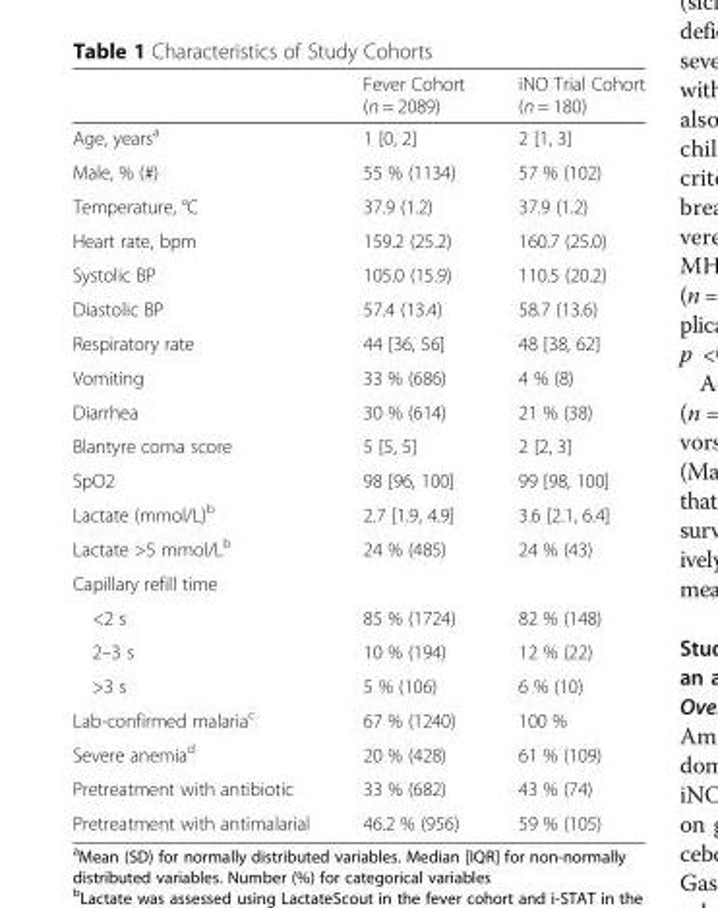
<table><thead><tr><td></td><td>Fever Cohort (n = 2089)</td><td>iNO Trial Cohort (n = 180)</td></tr></thead><tbody><tr><td>Age, years<sup>a</sup></td><td>1 [0, 2]</td><td>2 [1, 3]</td></tr><tr><td>Male, % (#)</td><td>55 % (1134)</td><td>57 % (102)</td></tr><tr><td>Temperature, °C</td><td>37.9 (1.2)</td><td>37.9 (1.2)</td></tr><tr><td>Heart rate, bpm</td><td>159.2 (25.2)</td><td>160.7 (25.0)</td></tr><tr><td>Systolic BP</td><td>105.0 (15.9)</td><td>110.5 (20.2)</td></tr><tr><td>Diastolic BP</td><td>57.4 (13.4)</td><td>58.7 (13.6)</td></tr><tr><td>Respiratory rate</td><td>44 [36, 56]</td><td>48 [38, 62]</td></tr><tr><td>Vomiting</td><td>33 % (686)</td><td>4 % (8)</td></tr><tr><td>Diarrhea</td><td>30 % (614)</td><td>21 % (38)</td></tr><tr><td>Blantyre coma score</td><td>5 [5, 5]</td><td>2 [2, 3]</td></tr><tr><td>SpO2</td><td>98 [96, 100]</td><td>99 [98, 100]</td></tr><tr><td>Lactate (mmol/L)<sup>b</sup></td><td>2.7 [1.9, 4.9]</td><td>3.6 [2.1, 6.4]</td></tr><tr><td>Lactate &gt;5 mmol/L<sup>b</sup></td><td>24 % (485)</td><td>24 % (43)</td></tr><tr><td colspan="3">Capillary refill time</td></tr><tr><td>&lt;2 s</td><td>85 % (1724)</td><td>82 % (148)</td></tr><tr><td>2–3 s</td><td>10 % (194)</td><td>12 % (22)</td></tr><tr><td>&gt;3 s</td><td>5 % (106)</td><td>6 % (10)</td></tr><tr><td>Lab-confirmed malaria<sup>c</sup></td><td>67 % (1240)</td><td>100 %</td></tr><tr><td>Severe anemia<sup>d</sup></td><td>20 % (428)</td><td>61 % (109)</td></tr><tr><td>Pretreatment with antibiotic</td><td>33 % (682)</td><td>43 % (74)</td></tr><tr><td>Pretreatment with antimalarial</td><td>46.2 % (956)</td><td>59 % (105)</td></tr></tbody></table>